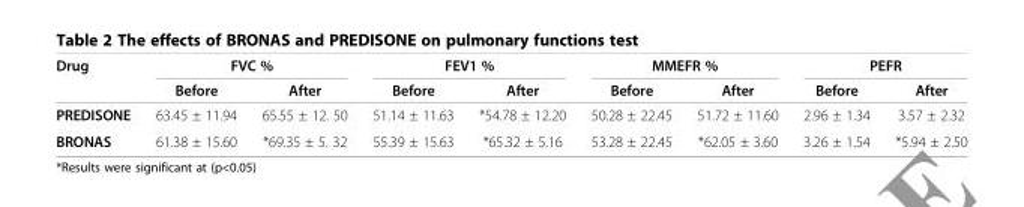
<table><thead><tr><td rowspan="2">Drug</td><td colspan="2">FVC %</td><td colspan="2">FEV1 %</td><td colspan="2">MMEFR %</td><td colspan="2">PEFR</td></tr><tr><td>Before</td><td>After</td><td>Before</td><td>After</td><td>Before</td><td>After</td><td>Before</td><td>After</td></tr></thead><tbody><tr><td>PREDISONE</td><td>63.45 ± 11.94</td><td>65.55 ± 12. 50</td><td>51.14 ± 11.63</td><td>*54.78 ± 12.20</td><td>50.28 ± 22.45</td><td>51.72 ± 11.60</td><td>2.96 ± 1.34</td><td>3.57 ± 2.32</td></tr><tr><td>BRONAS</td><td>61.38 ± 15.60</td><td>*69.35 ± 5. 32</td><td>55.39 ± 15.63</td><td>*65.32 ± 5.16</td><td>53.28 ± 22.45</td><td>*62.05 ± 3.60</td><td>3.26 ± 1.54</td><td>*5.94 ± 2.50</td></tr></tbody></table>